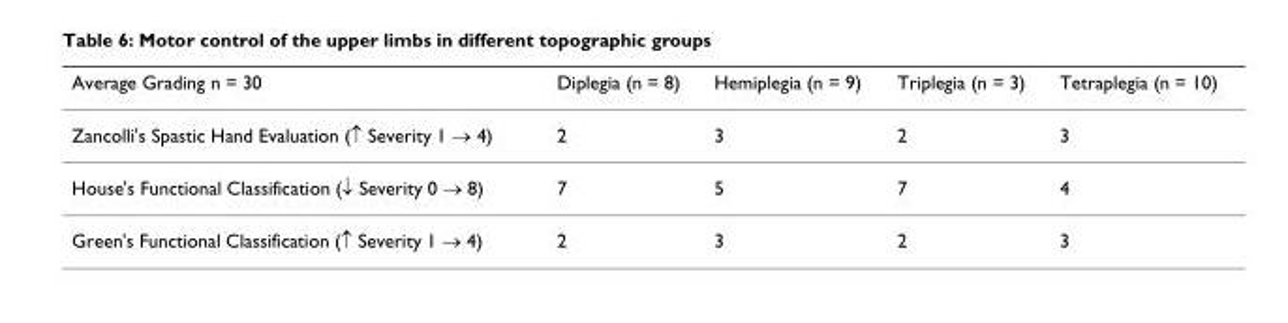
<table><thead><tr><td>Average Grading n = 30</td><td>Diplegia (n = 8)</td><td>Hemiplegia (n = 9)</td><td>Triplegia (n = 3)</td><td>Tetraplegia (n = 10)</td></tr></thead><tbody><tr><td>Zancolli&#x27;s Spastic Hand Evaluation (↑ Severity 1 → 4)</td><td>2</td><td>3</td><td>2</td><td>3</td></tr><tr><td>House&#x27;s Functional Classification (↓ Severity 0 → 8)</td><td>7</td><td>5</td><td>7</td><td>4</td></tr><tr><td>Green&#x27;s Functional Classification (↑ Severity 1 → 4)</td><td>2</td><td>3</td><td>2</td><td>3</td></tr></tbody></table>